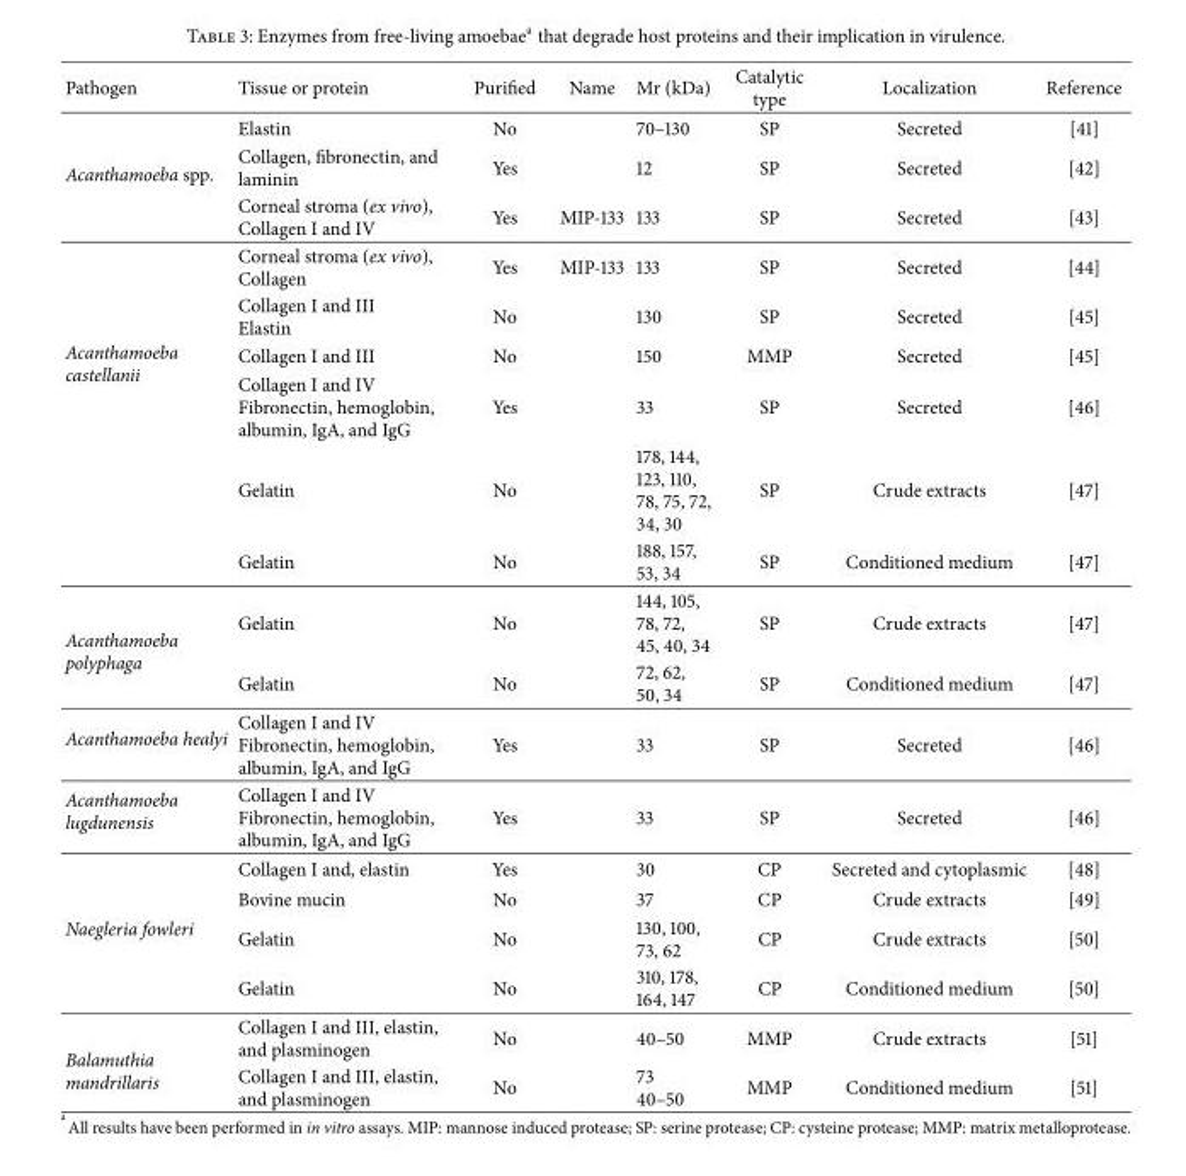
<table><thead><tr><td>Pathogen</td><td>Tissue or protein</td><td>Purified</td><td>Name</td><td>Mr (kDa)</td><td>Catalytic type</td><td>Localization</td><td>Reference</td></tr></thead><tbody><tr><td rowspan="3">Acanthamoeba spp.</td><td>Elastin</td><td>No</td><td></td><td>70–130</td><td>SP</td><td>Secreted</td><td>[41]</td></tr><tr><td>Collagen, fibronectin, and laminin</td><td>Yes</td><td></td><td>12</td><td>SP</td><td>Secreted</td><td>[42]</td></tr><tr><td>Corneal stroma (ex vivo), Collagen I and IV</td><td>Yes</td><td>MIP-133</td><td>133</td><td>SP</td><td>Secreted</td><td>[43]</td></tr><tr><td rowspan="6">Acanthamoeba castellanii</td><td>Corneal stroma (ex vivo), Collagen</td><td>Yes</td><td>MIP-133</td><td>133</td><td>SP</td><td>Secreted</td><td>[44]</td></tr><tr><td>Collagen I and III Elastin</td><td>No</td><td></td><td>130</td><td>SP</td><td>Secreted</td><td>[45]</td></tr><tr><td>Collagen I and III</td><td>No</td><td></td><td>150</td><td>MMP</td><td>Secreted</td><td>[45]</td></tr><tr><td>Collagen I and IV Fibronectin, hemoglobin, albumin, IgA, and IgG</td><td>Yes</td><td></td><td>33</td><td>SP</td><td>Secreted</td><td>[46]</td></tr><tr><td>Gelatin</td><td>No</td><td></td><td>178, 144, 123, 110, 78, 75, 72, 34, 30</td><td>SP</td><td>Crude extracts</td><td>[47]</td></tr><tr><td>Gelatin</td><td>No</td><td></td><td>188, 157, 53, 34</td><td>SP</td><td>Conditioned medium</td><td>[47]</td></tr><tr><td rowspan="2">Acanthamoeba polyphaga</td><td>Gelatin</td><td>No</td><td></td><td>144, 105, 78, 72, 45, 40, 34</td><td>SP</td><td>Crude extracts</td><td>[47]</td></tr><tr><td>Gelatin</td><td>No</td><td></td><td>72, 62, 50, 34</td><td>SP</td><td>Conditioned medium</td><td>[47]</td></tr><tr><td>Acanthamoeba healyi</td><td>Collagen I and IV Fibronectin, hemoglobin, albumin, IgA, and IgG</td><td>Yes</td><td></td><td>33</td><td>SP</td><td>Secreted</td><td>[46]</td></tr><tr><td>Acanthamoeba lugdunensis</td><td>Collagen I and IV Fibronectin, hemoglobin, albumin, IgA, and IgG</td><td>Yes</td><td></td><td>33</td><td>SP</td><td>Secreted</td><td>[46]</td></tr><tr><td rowspan="4">Naegleria fowleri</td><td>Collagen I and, elastin</td><td>Yes</td><td></td><td>30</td><td>CP</td><td>Secreted and cytoplasmic</td><td>[48]</td></tr><tr><td>Bovine mucin</td><td>No</td><td></td><td>37</td><td>CP</td><td>Crude extracts</td><td>[49]</td></tr><tr><td>Gelatin</td><td>No</td><td></td><td>130, 100, 73, 62</td><td>CP</td><td>Crude extracts</td><td>[50]</td></tr><tr><td>Gelatin</td><td>No</td><td></td><td>310, 178, 164, 147</td><td>CP</td><td>Conditioned medium</td><td>[50]</td></tr><tr><td rowspan="2">Balamuthia mandrillaris</td><td>Collagen I and III, elastin, and plasminogen</td><td>No</td><td></td><td>40–50</td><td>MMP</td><td>Crude extracts</td><td>[51]</td></tr><tr><td>Collagen I and III, elastin, and plasminogen</td><td>No</td><td></td><td>73 40–50</td><td>MMP</td><td>Conditioned medium</td><td>[51]</td></tr></tbody></table>